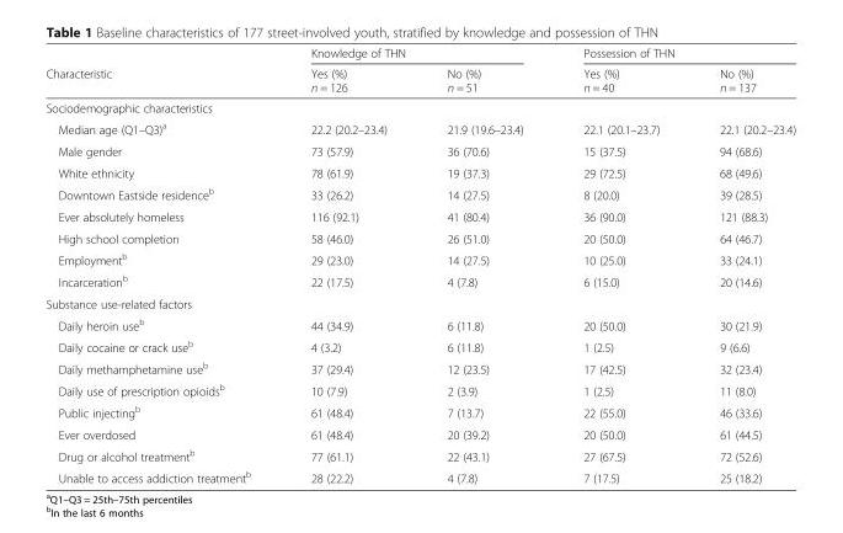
<table><thead><tr><td rowspan="2">Characteristic</td><td colspan="2">Knowledge of THN</td><td colspan="2">Possession of THN</td></tr><tr><td>Yes (%) n = 126</td><td>No (%) n = 51</td><td>Yes (%) n = 40</td><td>No (%) n = 137</td></tr></thead><tbody><tr><td colspan="5">Sociodemographic characteristics</td></tr><tr><td>Median age (Q1–Q3)<sup>a</sup></td><td>22.2 (20.2–23.4)</td><td>21.9 (19.6–23.4)</td><td>22.1 (20.1–23.7)</td><td>22.1 (20.2–23.4)</td></tr><tr><td>Male gender</td><td>73 (57.9)</td><td>36 (70.6)</td><td>15 (37.5)</td><td>94 (68.6)</td></tr><tr><td>White ethnicity</td><td>78 (61.9)</td><td>19 (37.3)</td><td>29 (72.5)</td><td>68 (49.6)</td></tr><tr><td>Downtown Eastside residence<sup>b</sup></td><td>33 (26.2)</td><td>14 (27.5)</td><td>8 (20.0)</td><td>39 (28.5)</td></tr><tr><td>Ever absolutely homeless</td><td>116 (92.1)</td><td>41 (80.4)</td><td>36 (90.0)</td><td>121 (88.3)</td></tr><tr><td>High school completion</td><td>58 (46.0)</td><td>26 (51.0)</td><td>20 (50.0)</td><td>64 (46.7)</td></tr><tr><td>Employment<sup>b</sup></td><td>29 (23.0)</td><td>14 (27.5)</td><td>10 (25.0)</td><td>33 (24.1)</td></tr><tr><td>Incarceration<sup>b</sup></td><td>22 (17.5)</td><td>4 (7.8)</td><td>6 (15.0)</td><td>20 (14.6)</td></tr><tr><td colspan="5">Substance use-related factors</td></tr><tr><td>Daily heroin use<sup>b</sup></td><td>44 (34.9)</td><td>6 (11.8)</td><td>20 (50.0)</td><td>30 (21.9)</td></tr><tr><td>Daily cocaine or crack use<sup>b</sup></td><td>4 (3.2)</td><td>6 (11.8)</td><td>1 (2.5)</td><td>9 (6.6)</td></tr><tr><td>Daily methamphetamine use<sup>b</sup></td><td>37 (29.4)</td><td>12 (23.5)</td><td>17 (42.5)</td><td>32 (23.4)</td></tr><tr><td>Daily use of prescription opioids<sup>b</sup></td><td>10 (7.9)</td><td>2 (3.9)</td><td>1 (2.5)</td><td>11 (8.0)</td></tr><tr><td>Public injecting<sup>b</sup></td><td>61 (48.4)</td><td>7 (13.7)</td><td>22 (55.0)</td><td>46 (33.6)</td></tr><tr><td>Ever overdosed</td><td>61 (48.4)</td><td>20 (39.2)</td><td>20 (50.0)</td><td>61 (44.5)</td></tr><tr><td>Drug or alcohol treatment<sup>b</sup></td><td>77 (61.1)</td><td>22 (43.1)</td><td>27 (67.5)</td><td>72 (52.6)</td></tr><tr><td>Unable to access addiction treatment<sup>b</sup></td><td>28 (22.2)</td><td>4 (7.8)</td><td>7 (17.5)</td><td>25 (18.2)</td></tr></tbody></table>